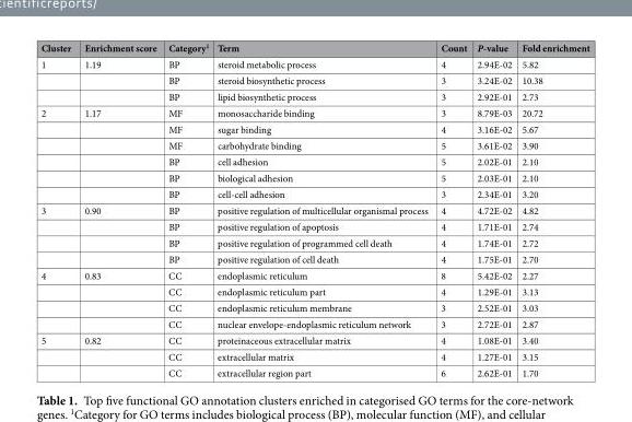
<table><thead><tr><td>Cluster</td><td>Enrichment score</td><td>Category<sup>1</sup></td><td>Term</td><td>Count</td><td>P-value</td><td>Fold enrichment</td></tr></thead><tbody><tr><td rowspan="3">1</td><td>1.19</td><td>BP</td><td>steroid metabolic process</td><td>4</td><td>2.94E-02</td><td>5.82</td></tr><tr><td></td><td>BP</td><td>steroid biosynthetic process</td><td>3</td><td>3.24E-02</td><td>10.38</td></tr><tr><td></td><td>BP</td><td>lipid biosynthetic process</td><td>3</td><td>2.92E-01</td><td>2.73</td></tr><tr><td rowspan="6">2</td><td>1.17</td><td>MF</td><td>monosaccharide binding</td><td>3</td><td>8.79E-03</td><td>20.72</td></tr><tr><td></td><td>MF</td><td>sugar binding</td><td>4</td><td>3.16E-02</td><td>5.67</td></tr><tr><td></td><td>MF</td><td>carbohydrate binding</td><td>5</td><td>3.61E-02</td><td>3.90</td></tr><tr><td></td><td>BP</td><td>cell adhesion</td><td>5</td><td>2.02E-01</td><td>2.10</td></tr><tr><td></td><td>BP</td><td>biological adhesion</td><td>5</td><td>2.03E-01</td><td>2.10</td></tr><tr><td></td><td>BP</td><td>cell-cell adhesion</td><td>3</td><td>2.34E-01</td><td>3.20</td></tr><tr><td rowspan="4">3</td><td>0.90</td><td>BP</td><td>positive regulation of multicellular organismal process</td><td>4</td><td>4.72E-02</td><td>4.82</td></tr><tr><td></td><td>BP</td><td>positive regulation of apoptosis</td><td>4</td><td>1.71E-01</td><td>2.74</td></tr><tr><td></td><td>BP</td><td>positive regulation of programmed cell death</td><td>4</td><td>1.74E-01</td><td>2.72</td></tr><tr><td></td><td>BP</td><td>positive regulation of cell death</td><td>4</td><td>1.75E-01</td><td>2.70</td></tr><tr><td rowspan="4">4</td><td>0.83</td><td>CC</td><td>endoplasmic reticulum</td><td>8</td><td>5.42E-02</td><td>2.27</td></tr><tr><td></td><td>CC</td><td>endoplasmic reticulum part</td><td>4</td><td>1.29E-01</td><td>3.13</td></tr><tr><td></td><td>CC</td><td>endoplasmic reticulum membrane</td><td>3</td><td>2.52E-01</td><td>3.03</td></tr><tr><td></td><td>CC</td><td>nuclear envelope-endoplasmic reticulum network</td><td>3</td><td>2.72E-01</td><td>2.87</td></tr><tr><td rowspan="3">5</td><td>0.82</td><td>CC</td><td>proteinaceous extracellular matrix</td><td>4</td><td>1.08E-01</td><td>3.40</td></tr><tr><td></td><td>CC</td><td>extracellular matrix</td><td>4</td><td>1.27E-01</td><td>3.15</td></tr><tr><td></td><td>CC</td><td>extracellular region part</td><td>6</td><td>2.62E-01</td><td>1.70</td></tr></tbody></table>